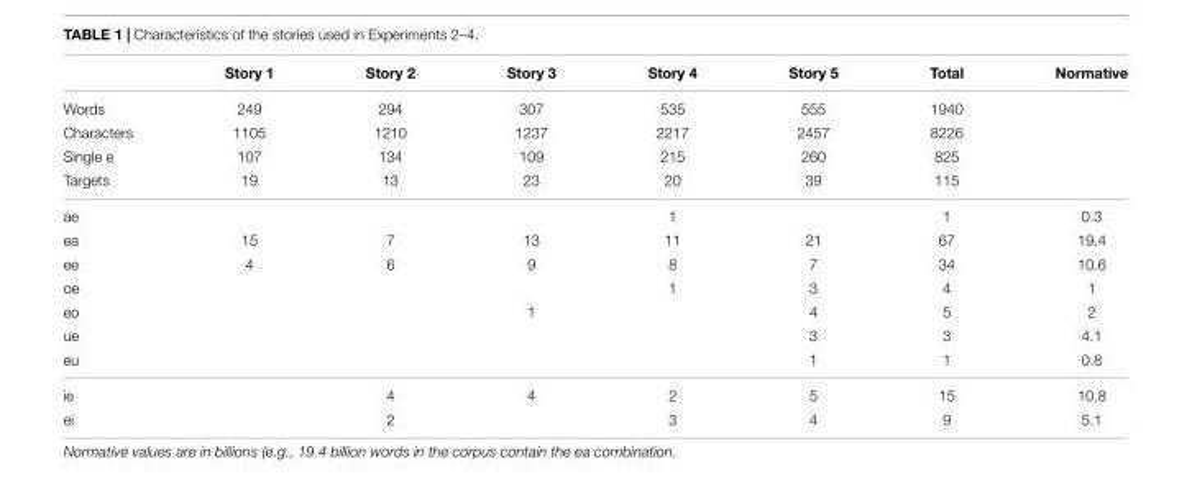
<table><thead><tr><td></td><td>Story 1</td><td>Story 2</td><td>Story 3</td><td>Story 4</td><td>Story 5</td><td>Total</td><td>Normative</td></tr></thead><tbody><tr><td>Words</td><td>249</td><td>294</td><td>307</td><td>535</td><td>555</td><td>1940</td><td></td></tr><tr><td>Characters</td><td>1105</td><td>1210</td><td>1237</td><td>2217</td><td>2457</td><td>8226</td><td></td></tr><tr><td>Single e</td><td>107</td><td>134</td><td>109</td><td>215</td><td>260</td><td>825</td><td></td></tr><tr><td>Targets</td><td>19</td><td>13</td><td>23</td><td>20</td><td>39</td><td>115</td><td></td></tr><tr><td>ae</td><td></td><td></td><td></td><td>1</td><td></td><td>1</td><td>0.3</td></tr><tr><td>ea</td><td>15</td><td>7</td><td>13</td><td>11</td><td>21</td><td>67</td><td>19.4</td></tr><tr><td>ee</td><td>4</td><td>6</td><td>9</td><td>8</td><td>7</td><td>34</td><td>10.6</td></tr><tr><td>oe</td><td></td><td></td><td></td><td>1</td><td>3</td><td>4</td><td>1</td></tr><tr><td>eo</td><td></td><td></td><td>1</td><td></td><td>4</td><td>5</td><td>2</td></tr><tr><td>ue</td><td></td><td></td><td></td><td></td><td>3</td><td>3</td><td>4.1</td></tr><tr><td>eu</td><td></td><td></td><td></td><td></td><td>1</td><td>1</td><td>0.8</td></tr><tr><td>ie</td><td></td><td>4</td><td>4</td><td>2</td><td>5</td><td>15</td><td>10.8</td></tr><tr><td>ei</td><td></td><td>2</td><td></td><td>3</td><td>4</td><td>9</td><td>5.1</td></tr></tbody></table>